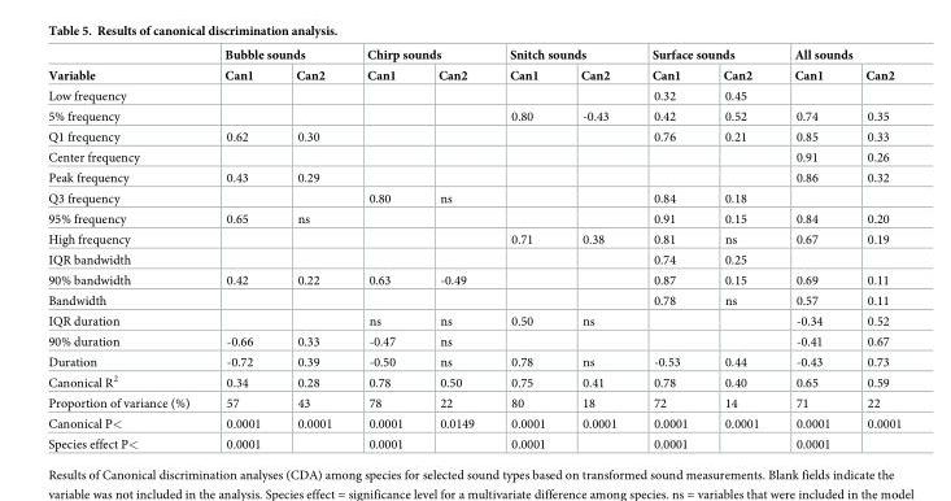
<table><thead><tr><td rowspan="2">Variable</td><td colspan="2">Bubble sounds</td><td colspan="2">Chirp sounds</td><td colspan="2">Snitch sounds</td><td colspan="2">Surface sounds</td><td colspan="2">All sounds</td></tr><tr><td>Can1</td><td>Can2</td><td>Can1</td><td>Can2</td><td>Can1</td><td>Can2</td><td>Can1</td><td>Can2</td><td>Can1</td><td>Can2</td></tr></thead><tbody><tr><td>Low frequency</td><td></td><td></td><td></td><td></td><td></td><td></td><td>0.32</td><td>0.45</td><td></td><td></td></tr><tr><td>5% frequency</td><td></td><td></td><td></td><td></td><td>0.80</td><td>-0.43</td><td>0.42</td><td>0.52</td><td>0.74</td><td>0.35</td></tr><tr><td>Q1 frequency</td><td>0.62</td><td>0.30</td><td></td><td></td><td></td><td></td><td>0.76</td><td>0.21</td><td>0.85</td><td>0.33</td></tr><tr><td>Center frequency</td><td></td><td></td><td></td><td></td><td></td><td></td><td></td><td></td><td>0.91</td><td>0.26</td></tr><tr><td>Peak frequency</td><td>0.43</td><td>0.29</td><td></td><td></td><td></td><td></td><td></td><td></td><td>0.86</td><td>0.32</td></tr><tr><td>Q3 frequency</td><td></td><td></td><td>0.80</td><td>ns</td><td></td><td></td><td>0.84</td><td>0.18</td><td></td><td></td></tr><tr><td>95% frequency</td><td>0.65</td><td>ns</td><td></td><td></td><td></td><td></td><td>0.91</td><td>0.15</td><td>0.84</td><td>0.20</td></tr><tr><td>High frequency</td><td></td><td></td><td></td><td></td><td>0.71</td><td>0.38</td><td>0.81</td><td>ns</td><td>0.67</td><td>0.19</td></tr><tr><td>IQR bandwidth</td><td></td><td></td><td></td><td></td><td></td><td></td><td>0.74</td><td>0.25</td><td></td><td></td></tr><tr><td>90% bandwidth</td><td>0.42</td><td>0.22</td><td>0.63</td><td>-0.49</td><td></td><td></td><td>0.87</td><td>0.15</td><td>0.69</td><td>0.11</td></tr><tr><td>Bandwidth</td><td></td><td></td><td></td><td></td><td></td><td></td><td>0.78</td><td>ns</td><td>0.57</td><td>0.11</td></tr><tr><td>IQR duration</td><td></td><td></td><td>ns</td><td>ns</td><td>0.50</td><td>ns</td><td></td><td></td><td>-0.34</td><td>0.52</td></tr><tr><td>90% duration</td><td>-0.66</td><td>0.33</td><td>-0.47</td><td>ns</td><td></td><td></td><td></td><td></td><td>-0.41</td><td>0.67</td></tr><tr><td>Duration</td><td>-0.72</td><td>0.39</td><td>-0.50</td><td>ns</td><td>0.78</td><td>ns</td><td>-0.53</td><td>0.44</td><td>-0.43</td><td>0.73</td></tr><tr><td>Canonical R<sup>2</sup></td><td>0.34</td><td>0.28</td><td>0.78</td><td>0.50</td><td>0.75</td><td>0.41</td><td>0.78</td><td>0.40</td><td>0.65</td><td>0.59</td></tr><tr><td>Proportion of variance (%)</td><td>57</td><td>43</td><td>78</td><td>22</td><td>80</td><td>18</td><td>72</td><td>14</td><td>71</td><td>22</td></tr><tr><td>Canonical P&lt;</td><td>0.0001</td><td>0.0001</td><td>0.0001</td><td>0.0149</td><td>0.0001</td><td>0.0001</td><td>0.0001</td><td>0.0001</td><td>0.0001</td><td>0.0001</td></tr><tr><td>Species effect P&lt;</td><td>0.0001</td><td></td><td>0.0001</td><td></td><td>0.0001</td><td></td><td>0.0001</td><td></td><td>0.0001</td><td></td></tr></tbody></table>